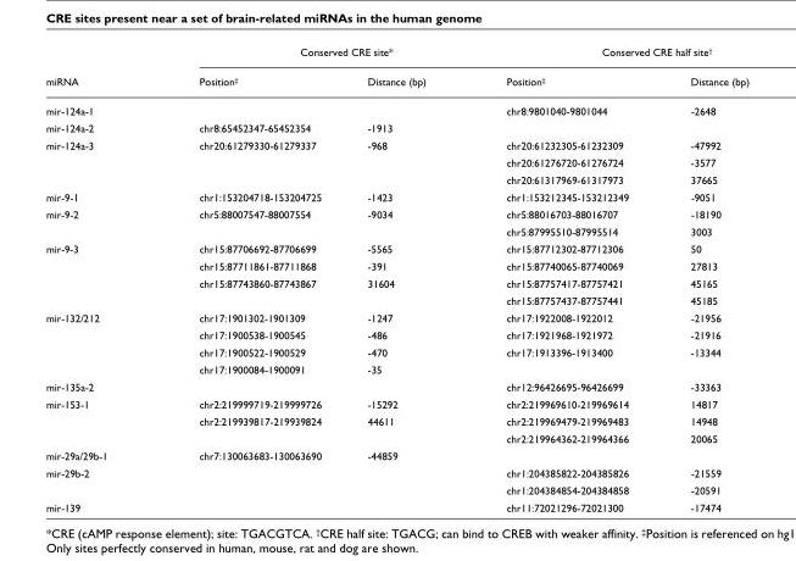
<table><thead><tr><td rowspan="2">miRNA</td><td colspan="2">Conserved CRE site*</td><td colspan="2">Conserved CRE half site†</td></tr><tr><td>Position‡</td><td>Distance (bp)</td><td>Position‡</td><td>Distance (bp)</td></tr></thead><tbody><tr><td>mir-124a-1</td><td></td><td></td><td>chr8:9801040-9801044</td><td>-2648</td></tr><tr><td>mir-124a-2</td><td>chr8:65452347-65452354</td><td>-1913</td><td></td><td></td></tr><tr><td rowspan="3">mir-124a-3</td><td>chr20:61279330-61279337</td><td>-968</td><td>chr20:61232305-61232309</td><td>-47992</td></tr><tr><td></td><td></td><td>chr20:61276720-61276724</td><td>-3577</td></tr><tr><td></td><td></td><td>chr20:61317969-61317973</td><td>37665</td></tr><tr><td>mir-9-1</td><td>chr1:153204718-153204725</td><td>-1423</td><td>chr1:153212345-153212349</td><td>-9051</td></tr><tr><td rowspan="2">mir-9-2</td><td>chr5:88007547-88007554</td><td>-9034</td><td>chr5:88016703-88016707</td><td>-18190</td></tr><tr><td></td><td></td><td>chr5:87995510-87995514</td><td>3003</td></tr><tr><td rowspan="4">mir-9-3</td><td>chr15:87706692-87706699</td><td>-5565</td><td>chr15:87712302-87712306</td><td>50</td></tr><tr><td>chr15:87711861-87711868</td><td>-391</td><td>chr15:87740065-87740069</td><td>27813</td></tr><tr><td>chr15:87743860-87743867</td><td>31604</td><td>chr15:87757417-87757421</td><td>45165</td></tr><tr><td></td><td></td><td>chr15:87757437-87757441</td><td>45185</td></tr><tr><td rowspan="4">mir-132/212</td><td>chr17:1901302-1901309</td><td>-1247</td><td>chr17:1922008-1922012</td><td>-21956</td></tr><tr><td>chr17:1900538-1900545</td><td>-486</td><td>chr17:1921968-1921972</td><td>-21916</td></tr><tr><td>chr17:1900522-1900529</td><td>-470</td><td>chr17:1913396-1913400</td><td>-13344</td></tr><tr><td>chr17:1900084-1900091</td><td>-35</td><td></td><td></td></tr><tr><td>mir-135a-2</td><td></td><td></td><td>chr12:96426695-96426699</td><td>-33363</td></tr><tr><td rowspan="3">mir-153-1</td><td>chr2:219999719-219999726</td><td>-15292</td><td>chr2:219969610-219969614</td><td>14817</td></tr><tr><td>chr2:219939817-219939824</td><td>44611</td><td>chr2:219969479-219969483</td><td>14948</td></tr><tr><td></td><td></td><td>chr2:219964362-219964366</td><td>20065</td></tr><tr><td>mir-29a/29b-1</td><td>chr7:130063683-130063690</td><td>-44859</td><td></td><td></td></tr><tr><td rowspan="2">mir-29b-2</td><td></td><td></td><td>chr1:204385822-204385826</td><td>-21559</td></tr><tr><td></td><td></td><td>chr1:204384854-204384858</td><td>-20591</td></tr><tr><td>mir-139</td><td></td><td></td><td>chr11:72021296-72021300</td><td>-17474</td></tr></tbody></table>